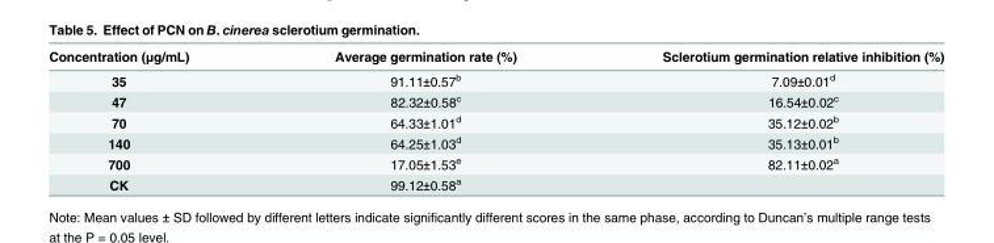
<table><thead><tr><td>Concentration (μg/mL)</td><td>Average germination rate (%)</td><td>Sclerotium germination relative inhibition (%)</td></tr></thead><tbody><tr><td>35</td><td>91.11±0.57<sup>b</sup></td><td>7.09±0.01<sup>d</sup></td></tr><tr><td>47</td><td>82.32±0.58<sup>c</sup></td><td>16.54±0.02<sup>c</sup></td></tr><tr><td>70</td><td>64.33±1.01<sup>d</sup></td><td>35.12±0.02<sup>b</sup></td></tr><tr><td>140</td><td>64.25±1.03<sup>d</sup></td><td>35.13±0.01<sup>b</sup></td></tr><tr><td>700</td><td>17.05±1.53<sup>e</sup></td><td>82.11±0.02<sup>a</sup></td></tr><tr><td>CK</td><td>99.12±0.58<sup>a</sup></td><td></td></tr></tbody></table>